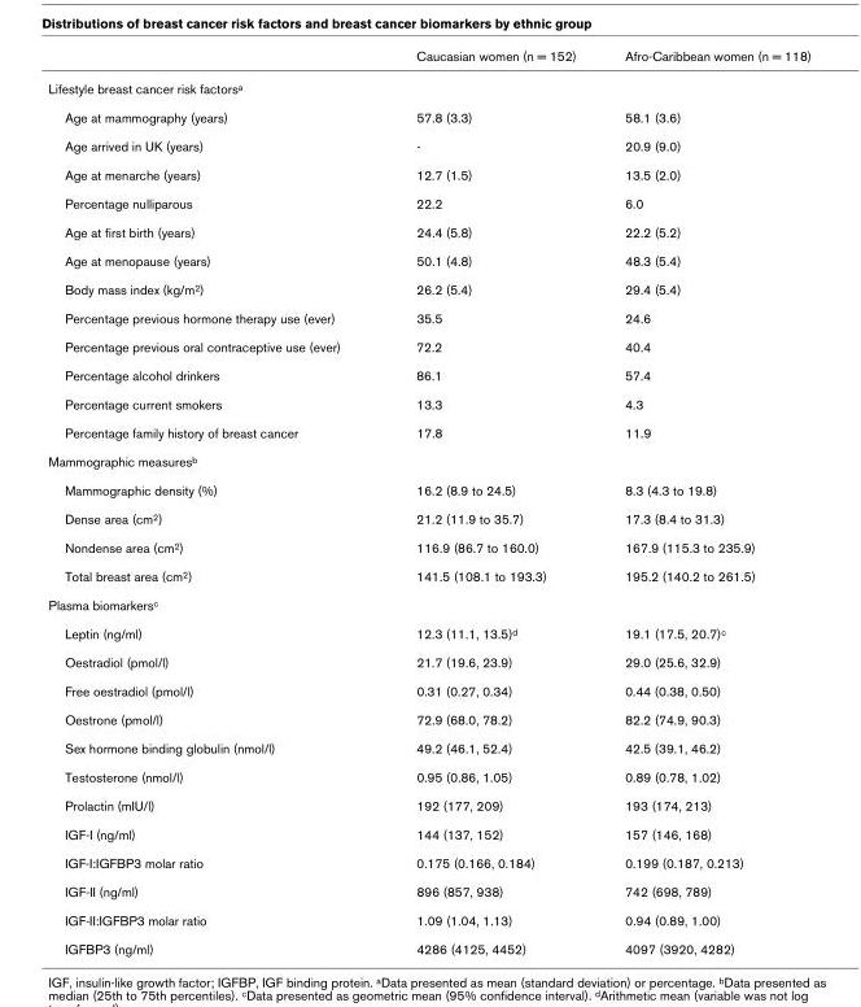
<table><thead><tr><td></td><td>Caucasian women (n = 152)</td><td>Afro-Caribbean women (n = 118)</td></tr></thead><tbody><tr><td colspan="3">Lifestyle breast cancer risk factors<sup>a</sup></td></tr><tr><td>Age at mammography (years)</td><td>57.8 (3.3)</td><td>58.1 (3.6)</td></tr><tr><td>Age arrived in UK (years)</td><td>-</td><td>20.9 (9.0)</td></tr><tr><td>Age at menarche (years)</td><td>12.7 (1.5)</td><td>13.5 (2.0)</td></tr><tr><td>Percentage nulliparous</td><td>22.2</td><td>6.0</td></tr><tr><td>Age at first birth (years)</td><td>24.4 (5.8)</td><td>22.2 (5.2)</td></tr><tr><td>Age at menopause (years)</td><td>50.1 (4.8)</td><td>48.3 (5.4)</td></tr><tr><td>Body mass index (kg/m<sup>2</sup>)</td><td>26.2 (5.4)</td><td>29.4 (5.4)</td></tr><tr><td>Percentage previous hormone therapy use (ever)</td><td>35.5</td><td>24.6</td></tr><tr><td>Percentage previous oral contraceptive use (ever)</td><td>72.2</td><td>40.4</td></tr><tr><td>Percentage alcohol drinkers</td><td>86.1</td><td>57.4</td></tr><tr><td>Percentage current smokers</td><td>13.3</td><td>4.3</td></tr><tr><td>Percentage family history of breast cancer</td><td>17.8</td><td>11.9</td></tr><tr><td colspan="3">Mammographic measures<sup>b</sup></td></tr><tr><td>Mammographic density (%)</td><td>16.2 (8.9 to 24.5)</td><td>8.3 (4.3 to 19.8)</td></tr><tr><td>Dense area (cm<sup>2</sup>)</td><td>21.2 (11.9 to 35.7)</td><td>17.3 (8.4 to 31.3)</td></tr><tr><td>Nondense area (cm<sup>2</sup>)</td><td>116.9 (86.7 to 160.0)</td><td>167.9 (115.3 to 235.9)</td></tr><tr><td>Total breast area (cm<sup>2</sup>)</td><td>141.5 (108.1 to 193.3)</td><td>195.2 (140.2 to 261.5)</td></tr><tr><td colspan="3">Plasma biomarkers<sup>c</sup></td></tr><tr><td>Leptin (ng/ml)</td><td>12.3 (11.1, 13.5)<sup>d</sup></td><td>19.1 (17.5, 20.7)<sup>c</sup></td></tr><tr><td>Oestradiol (pmol/l)</td><td>21.7 (19.6, 23.9)</td><td>29.0 (25.6, 32.9)</td></tr><tr><td>Free oestradiol (pmol/l)</td><td>0.31 (0.27, 0.34)</td><td>0.44 (0.38, 0.50)</td></tr><tr><td>Oestrone (pmol/l)</td><td>72.9 (68.0, 78.2)</td><td>82.2 (74.9, 90.3)</td></tr><tr><td>Sex hormone binding globulin (nmol/l)</td><td>49.2 (46.1, 52.4)</td><td>42.5 (39.1, 46.2)</td></tr><tr><td>Testosterone (nmol/l)</td><td>0.95 (0.86, 1.05)</td><td>0.89 (0.78, 1.02)</td></tr><tr><td>Prolactin (mIU/l)</td><td>192 (177, 209)</td><td>193 (174, 213)</td></tr><tr><td>IGF-I (ng/ml)</td><td>144 (137, 152)</td><td>157 (146, 168)</td></tr><tr><td>IGF-I:IGFBP3 molar ratio</td><td>0.175 (0.166, 0.184)</td><td>0.199 (0.187, 0.213)</td></tr><tr><td>IGF-II (ng/ml)</td><td>896 (857, 938)</td><td>742 (698, 789)</td></tr><tr><td>IGF-II:IGFBP3 molar ratio</td><td>1.09 (1.04, 1.13)</td><td>0.94 (0.89, 1.00)</td></tr><tr><td>IGFBP3 (ng/ml)</td><td>4286 (4125, 4452)</td><td>4097 (3920, 4282)</td></tr></tbody></table>